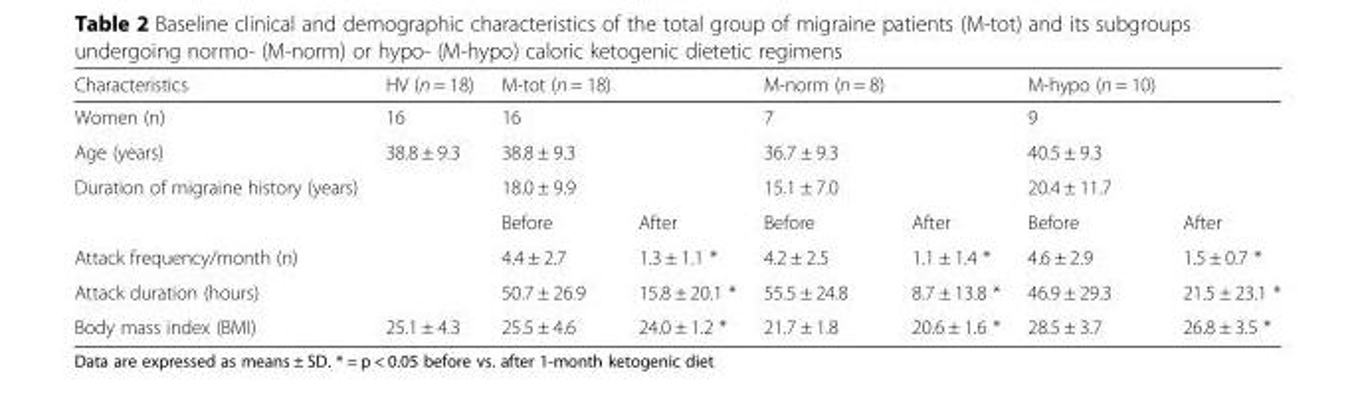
<table><thead><tr><td>Characteristics</td><td>HV (n = 18)</td><td>M-tot (n = 18)</td><td></td><td>M-norm (n = 8)</td><td></td><td>M-hypo (n = 10)</td><td></td></tr></thead><tbody><tr><td>Women (n)</td><td>16</td><td>16</td><td></td><td>7</td><td></td><td>9</td><td></td></tr><tr><td>Age (years)</td><td>38.8 ± 9.3</td><td>38.8 ± 9.3</td><td></td><td>36.7 ± 9.3</td><td></td><td>40.5 ± 9.3</td><td></td></tr><tr><td rowspan="2">Duration of migraine history (years)</td><td></td><td>18.0 ± 9.9</td><td></td><td>15.1 ± 7.0</td><td></td><td>20.4 ± 11.7</td><td></td></tr><tr><td></td><td>Before</td><td>After</td><td>Before</td><td>After</td><td>Before</td><td>After</td></tr><tr><td>Attack frequency/month (n)</td><td></td><td>4.4 ± 2.7</td><td>1.3 ± 1.1 *</td><td>4.2 ± 2.5</td><td>1.1 ± 1.4 *</td><td>4.6 ± 2.9</td><td>1.5 ± 0.7 *</td></tr><tr><td>Attack duration (hours)</td><td></td><td>50.7 ± 26.9</td><td>15.8 ± 20.1 *</td><td>55.5 ± 24.8</td><td>8.7 ± 13.8 *</td><td>46.9 ± 29.3</td><td>21.5 ± 23.1 *</td></tr><tr><td>Body mass index (BMI)</td><td>25.1 ± 4.3</td><td>25.5 ± 4.6</td><td>24.0 ± 1.2 *</td><td>21.7 ± 1.8</td><td>20.6 ± 1.6 *</td><td>28.5 ± 3.7</td><td>26.8 ± 3.5 *</td></tr></tbody></table>